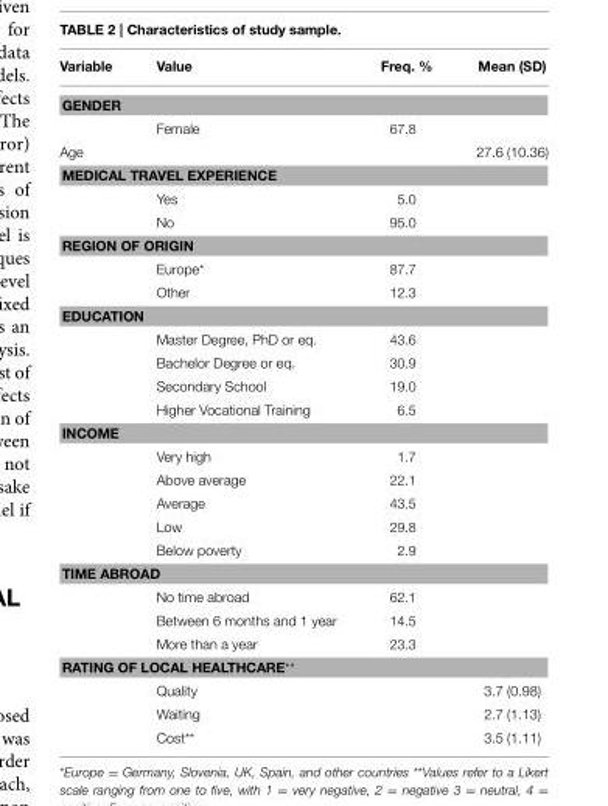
<table><thead><tr><td>Variable</td><td>Value</td><td>Freq. %</td><td>Mean (SD)</td></tr></thead><tbody><tr><td colspan="4">GENDER</td></tr><tr><td></td><td>Female</td><td>67.8</td><td></td></tr><tr><td>Age</td><td></td><td></td><td>27.6 (10.36)</td></tr><tr><td colspan="4">MEDICAL TRAVEL EXPERIENCE</td></tr><tr><td></td><td>Yes</td><td>5.0</td><td></td></tr><tr><td></td><td>No</td><td>95.0</td><td></td></tr><tr><td colspan="4">REGION OF ORIGIN</td></tr><tr><td></td><td>Europe*</td><td>87.7</td><td></td></tr><tr><td></td><td>Other</td><td>12.3</td><td></td></tr><tr><td colspan="4">EDUCATION</td></tr><tr><td></td><td>Master Degree, PhD or eq.</td><td>43.6</td><td></td></tr><tr><td></td><td>Bachelor Degree or eq.</td><td>30.9</td><td></td></tr><tr><td></td><td>Secondary School</td><td>19.0</td><td></td></tr><tr><td></td><td>Higher Vocational Training</td><td>6.5</td><td></td></tr><tr><td colspan="4">INCOME</td></tr><tr><td></td><td>Very high</td><td>1.7</td><td></td></tr><tr><td></td><td>Above average</td><td>22.1</td><td></td></tr><tr><td></td><td>Average</td><td>43.5</td><td></td></tr><tr><td></td><td>Low</td><td>29.8</td><td></td></tr><tr><td></td><td>Below poverty</td><td>2.9</td><td></td></tr><tr><td colspan="4">TIME ABROAD</td></tr><tr><td></td><td>No time abroad</td><td>62.1</td><td></td></tr><tr><td></td><td>Between 6 months and 1 year</td><td>14.5</td><td></td></tr><tr><td></td><td>More than a year</td><td>23.3</td><td></td></tr><tr><td colspan="4">RATING OF LOCAL HEALTHCARE**</td></tr><tr><td></td><td>Quality</td><td></td><td>3.7 (0.98)</td></tr><tr><td></td><td>Waiting</td><td></td><td>2.7 (1.13)</td></tr><tr><td></td><td>Cost**</td><td></td><td>3.5 (1.11)</td></tr></tbody></table>